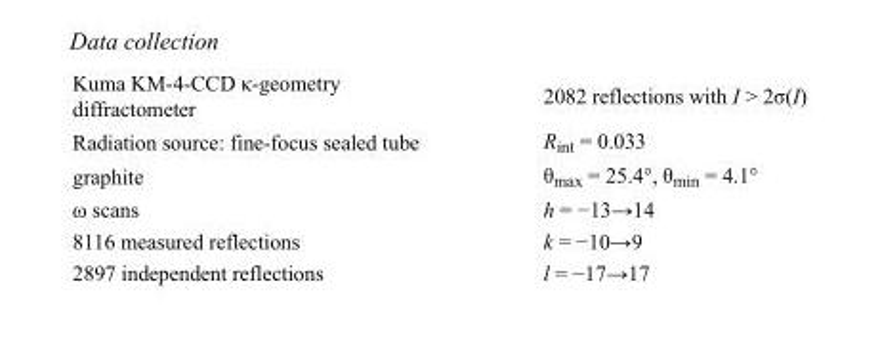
<table><tbody><tr><td>Kuma KM-4-CCD κ-geometry diffractometer</td><td>2082 reflections with I &gt; 2σ(I)</td></tr><tr><td>Radiation source: fine-focus sealed tube</td><td>R<sub>int</sub> = 0.033</td></tr><tr><td>graphite</td><td>θ<sub>max</sub> = 25.4°, θ<sub>min</sub> = 4.1°</td></tr><tr><td>ω scans</td><td>h = −13→14</td></tr><tr><td>8116 measured reflections</td><td>k = −10→9</td></tr><tr><td>2897 independent reflections</td><td>l = −17→17</td></tr></tbody></table>